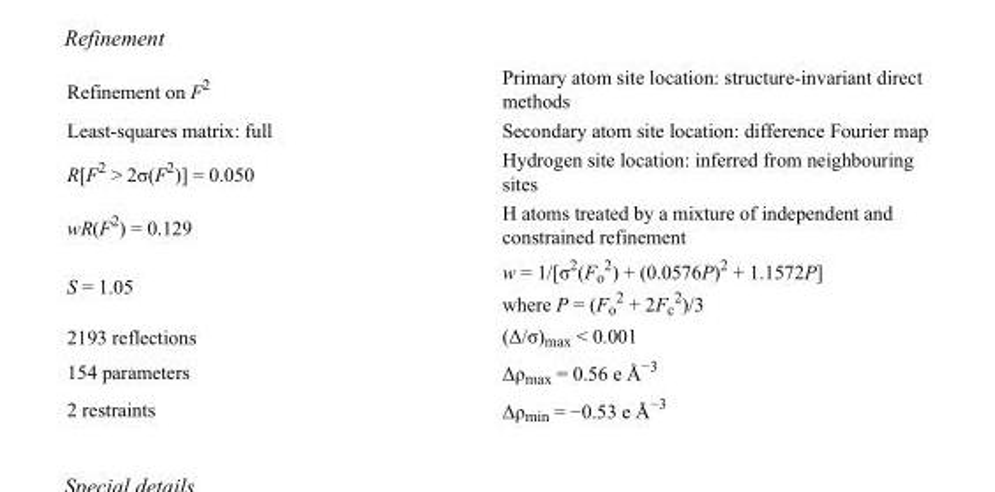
<table><tbody><tr><td>Refinement on F<sup>2</sup></td><td>Primary atom site location: structure-invariant direct methods</td></tr><tr><td>Least-squares matrix: full</td><td>Secondary atom site location: difference Fourier map</td></tr><tr><td>R[F<sup>2</sup> &gt; 2σ(F<sup>2</sup>)] = 0.050</td><td>Hydrogen site location: inferred from neighbouring sites</td></tr><tr><td>wR(F<sup>2</sup>) = 0.129</td><td>H atoms treated by a mixture of independent and constrained refinement</td></tr><tr><td>S = 1.05</td><td>w = 1/[σ<sup>2</sup>(F<sub>o</sub> <sup>2</sup>) + (0.0576P)<sup>2</sup> + 1.1572P] where P = (F<sub>o</sub> <sup>2</sup> + 2F<sub>c</sub> <sup>2</sup>)/3</td></tr><tr><td>2193 reflections</td><td>(Δ/σ)<sub>max</sub> &lt; 0.001</td></tr><tr><td>154 parameters</td><td>Δρ<sub>max</sub> = 0.56 e Å<sup>−3</sup></td></tr><tr><td>2 restraints</td><td>Δρ<sub>min</sub> = −0.53 e Å<sup>−3</sup></td></tr></tbody></table>